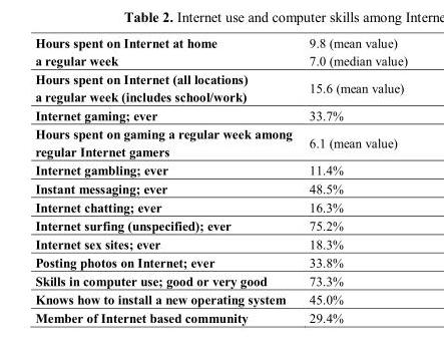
<table><tbody><tr><td>Hours spent on Internet at home a regular week</td><td>9.8 (mean value) 7.0 (median value)</td></tr><tr><td>Hours spent on Internet (all locations) a regular week (includes school/work)</td><td>15.6 (mean value)</td></tr><tr><td>Internet gaming; ever</td><td>33.7%</td></tr><tr><td>Hours spent on gaming a regular week among regular Internet gamers</td><td>6.1 (mean value)</td></tr><tr><td>Internet gambling; ever</td><td>11.4%</td></tr><tr><td>Instant messaging; ever</td><td>48.5%</td></tr><tr><td>Internet chatting; ever</td><td>16.3%</td></tr><tr><td>Internet surfing (unspecified); ever</td><td>75.2%</td></tr><tr><td>Internet sex sites; ever</td><td>18.3%</td></tr><tr><td>Posting photos on Internet; ever</td><td>33.8%</td></tr><tr><td>Skills in computer use; good or very good</td><td>73.3%</td></tr><tr><td>Knows how to install a new operating system</td><td>45.0%</td></tr><tr><td>Member of Internet based community</td><td>29.4%</td></tr></tbody></table>